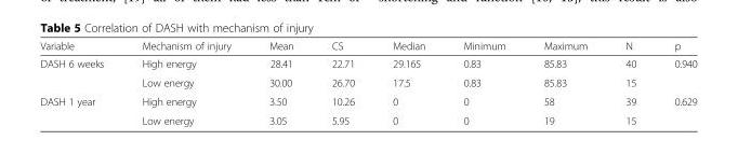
<table><thead><tr><td>Variable</td><td>Mechanism of injury</td><td>Mean</td><td>CS</td><td>Median</td><td>Minimum</td><td>Maximum</td><td>N</td><td>p</td></tr></thead><tbody><tr><td rowspan="2">DASH 6 weeks</td><td>High energy</td><td>28.41</td><td>22.71</td><td>29.165</td><td>0.83</td><td>85.83</td><td>40</td><td rowspan="2">0.940</td></tr><tr><td>Low energy</td><td>30.00</td><td>26.70</td><td>17.5</td><td>0.83</td><td>85.83</td><td>15</td></tr><tr><td rowspan="2">DASH 1 year</td><td>High energy</td><td>3.50</td><td>10.26</td><td>0</td><td>0</td><td>58</td><td>39</td><td rowspan="2">0.629</td></tr><tr><td>Low energy</td><td>3.05</td><td>5.95</td><td>0</td><td>0</td><td>19</td><td>15</td></tr></tbody></table>